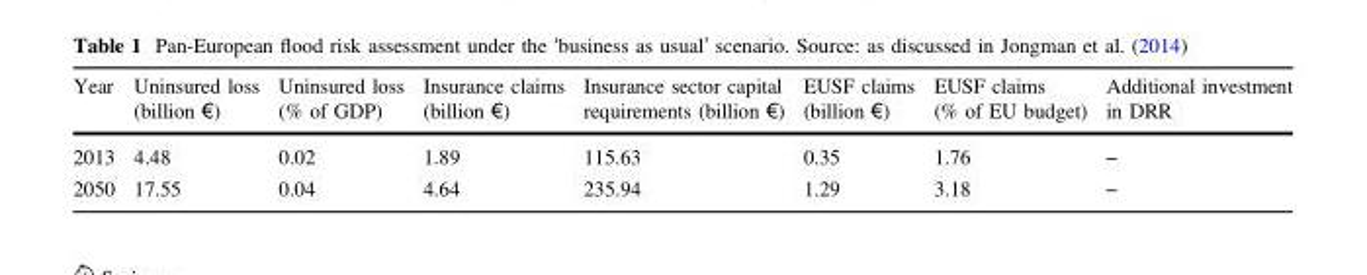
<table><thead><tr><td>Year</td><td>Uninsured loss (billion €)</td><td>Uninsured loss (% of GDP)</td><td>Insurance claims (billion €)</td><td>Insurance sector capital requirements (billion €)</td><td>EUSF claims (billion €)</td><td>EUSF claims (% of EU budget)</td><td>Additional investment in DRR</td></tr></thead><tbody><tr><td>2013</td><td>4.48</td><td>0.02</td><td>1.89</td><td>115.63</td><td>0.35</td><td>1.76</td><td>–</td></tr><tr><td>2050</td><td>17.55</td><td>0.04</td><td>4.64</td><td>235.94</td><td>1.29</td><td>3.18</td><td>–</td></tr></tbody></table>